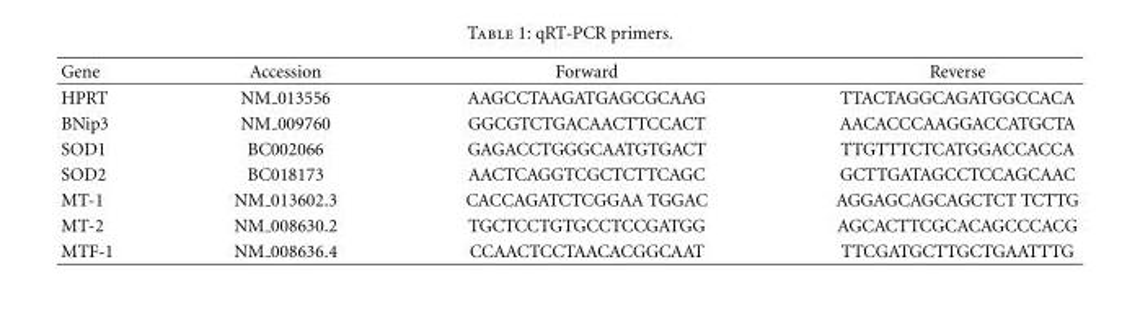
<table><thead><tr><td>Gene</td><td>Accession</td><td>Forward</td><td>Reverse</td></tr></thead><tbody><tr><td>HPRT</td><td>NM 013556</td><td>AAGCCTAAGATGAGCGCAAG</td><td>TTACTAGGCAGATGGCCACA</td></tr><tr><td>BNip3</td><td>NM 009760</td><td>GGCGTCTGACAACTTCCACT</td><td>AACACCCAAGGACCATGCTA</td></tr><tr><td>SOD1</td><td>BC002066</td><td>GAGACCTGGGCAATGTGACT</td><td>TTGTTTCTCATGGACCACCA</td></tr><tr><td>SOD2</td><td>BC018173</td><td>AACTCAGGTCGCTCTTCAGC</td><td>GCTTGATAGCCTCCAGCAAC</td></tr><tr><td>MT-1</td><td>NM 013602.3</td><td>CACCAGATCTCGGAA TGGAC</td><td>AGGAGCAGCAGCTCT TCTTG</td></tr><tr><td>MT-2</td><td>NM 008630.2</td><td>TGCTCCTGTGCCTCCGATGG</td><td>AGCACTTCGCACAGCCCACG</td></tr><tr><td>MTF-1</td><td>NM 008636.4</td><td>CCAACTCCTAACACGGCAAT</td><td>TTCGATGCTTGCTGAATTTG</td></tr></tbody></table>